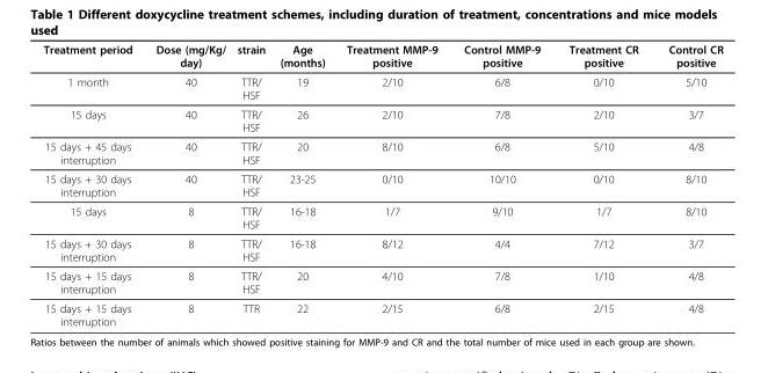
<table><thead><tr><td>Treatment period</td><td>Dose (mg/Kg/ day)</td><td>strain</td><td>Age (months)</td><td>Treatment MMP-9 positive</td><td>Control MMP-9 positive</td><td>Treatment CR positive</td><td>Control CR positive</td></tr></thead><tbody><tr><td>1 month</td><td>40</td><td>TTR/ HSF</td><td>19</td><td>2/10</td><td>6/8</td><td>0/10</td><td>5/10</td></tr><tr><td>15 days</td><td>40</td><td>TTR/ HSF</td><td>26</td><td>2/10</td><td>7/8</td><td>2/10</td><td>3/7</td></tr><tr><td>15 days + 45 days interruption</td><td>40</td><td>TTR/ HSF</td><td>20</td><td>8/10</td><td>6/8</td><td>5/10</td><td>4/8</td></tr><tr><td>15 days + 30 days interruption</td><td>40</td><td>TTR/ HSF</td><td>23-25</td><td>0/10</td><td>10/10</td><td>0/10</td><td>8/10</td></tr><tr><td>15 days</td><td>8</td><td>TTR/ HSF</td><td>16-18</td><td>1/7</td><td>9/10</td><td>1/7</td><td>8/10</td></tr><tr><td>15 days + 30 days interruption</td><td>8</td><td>TTR/ HSF</td><td>16-18</td><td>8/12</td><td>4/4</td><td>7/12</td><td>3/7</td></tr><tr><td>15 days + 15 days interruption</td><td>8</td><td>TTR/ HSF</td><td>20</td><td>4/10</td><td>7/8</td><td>1/10</td><td>4/8</td></tr><tr><td>15 days + 15 days interruption</td><td>8</td><td>TTR</td><td>22</td><td>2/15</td><td>6/8</td><td>2/15</td><td>4/8</td></tr></tbody></table>